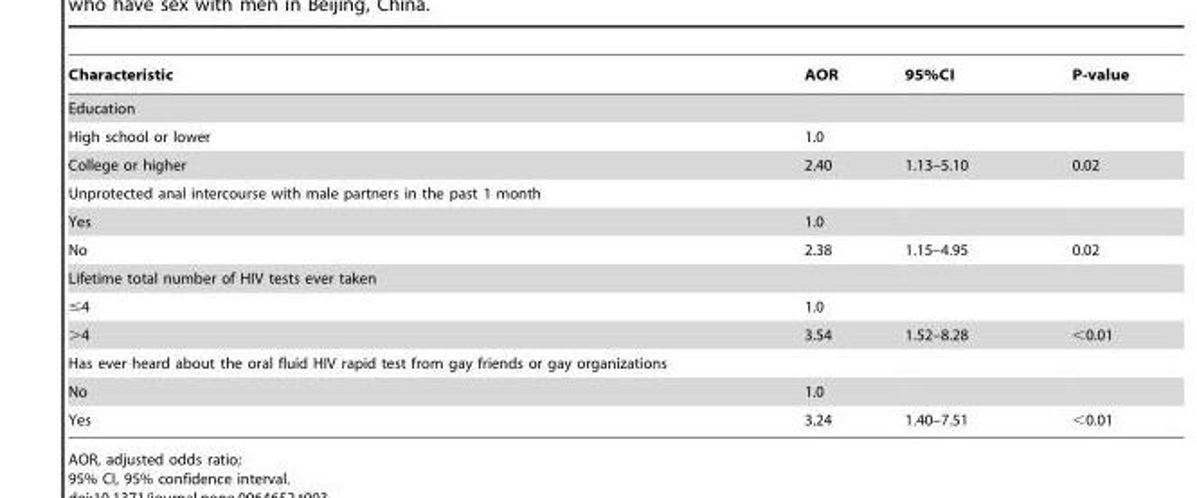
<table><thead><tr><td>Characteristic</td><td>AOR</td><td>95%CI</td><td>P-value</td></tr></thead><tbody><tr><td colspan="4">Education</td></tr><tr><td>High school or lower</td><td>1.0</td><td></td><td></td></tr><tr><td>College or higher</td><td>2.40</td><td>1.13–5.10</td><td>0.02</td></tr><tr><td colspan="4">Unprotected anal intercourse with male partners in the past 1 month</td></tr><tr><td>Yes</td><td>1.0</td><td></td><td></td></tr><tr><td>No</td><td>2.38</td><td>1.15–4.95</td><td>0.02</td></tr><tr><td colspan="4">Lifetime total number of HIV tests ever taken</td></tr><tr><td>≤4</td><td>1.0</td><td></td><td></td></tr><tr><td>&gt;4</td><td>3.54</td><td>1.52–8.28</td><td>&lt;0.01</td></tr><tr><td colspan="4">Has ever heard about the oral fluid HIV rapid test from gay friends or gay organizations</td></tr><tr><td>No</td><td>1.0</td><td></td><td></td></tr><tr><td>Yes</td><td>3.24</td><td>1.40–7.51</td><td>&lt;0.01</td></tr></tbody></table>